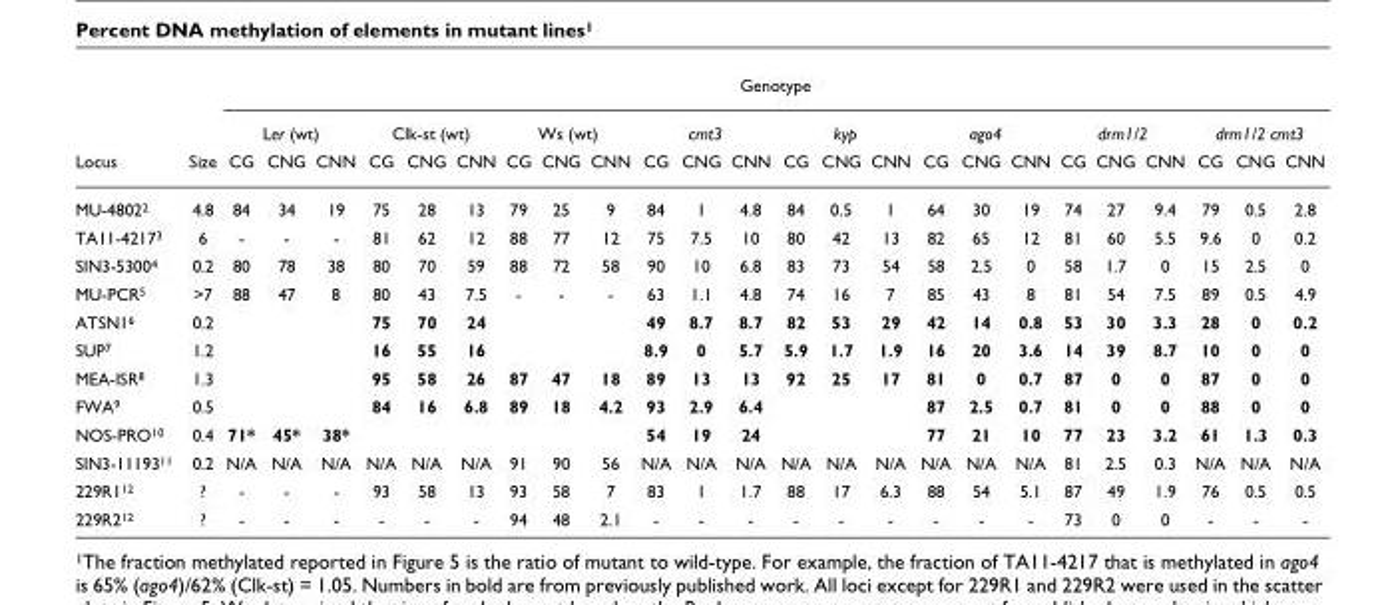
<table><thead><tr><td rowspan="3">Locus</td><td rowspan="3">Size</td><td colspan="24">Genotype</td></tr><tr><td colspan="3">Ler (wt)</td><td colspan="3">Clk-st (wt)</td><td colspan="3">Ws (wt)</td><td colspan="3">cmt3</td><td colspan="3">kyp</td><td colspan="3">ago4</td><td colspan="3">drm1/2</td><td colspan="3">drm1/2 cmt3</td></tr><tr><td>CG</td><td>CNG</td><td>CNN</td><td>CG</td><td>CNG</td><td>CNN</td><td>CG</td><td>CNG</td><td>CNN</td><td>CG</td><td>CNG</td><td>CNN</td><td>CG</td><td>CNG</td><td>CNN</td><td>CG</td><td>CNG</td><td>CNN</td><td>CG</td><td>CNG</td><td>CNN</td><td>CG</td><td>CNG</td><td>CNN</td></tr></thead><tbody><tr><td>MU-48022</td><td>4.8</td><td>84</td><td>34</td><td>19</td><td>75</td><td>28</td><td>13</td><td>79</td><td>25</td><td>9</td><td>84</td><td>1</td><td>4.8</td><td>84</td><td>0.5</td><td>1</td><td>64</td><td>30</td><td>19</td><td>74</td><td>27</td><td>9.4</td><td>79</td><td>0.5</td><td>2.8</td></tr><tr><td>TA11-42173</td><td>6</td><td>-</td><td>-</td><td>-</td><td>81</td><td>62</td><td>12</td><td>88</td><td>77</td><td>12</td><td>75</td><td>7.5</td><td>10</td><td>80</td><td>42</td><td>13</td><td>82</td><td>65</td><td>12</td><td>81</td><td>60</td><td>5.5</td><td>9.6</td><td>0</td><td>0.2</td></tr><tr><td>SIN3-53004</td><td>0.2</td><td>80</td><td>78</td><td>38</td><td>80</td><td>70</td><td>59</td><td>88</td><td>72</td><td>58</td><td>90</td><td>10</td><td>6.8</td><td>83</td><td>73</td><td>54</td><td>58</td><td>2.5</td><td>0</td><td>58</td><td>1.7</td><td>0</td><td>15</td><td>2.5</td><td>0</td></tr><tr><td>MU-PCR5</td><td>&gt;7</td><td>88</td><td>47</td><td>8</td><td>80</td><td>43</td><td>7.5</td><td>-</td><td>-</td><td>-</td><td>63</td><td>1.1</td><td>4.8</td><td>74</td><td>16</td><td>7</td><td>85</td><td>43</td><td>8</td><td>81</td><td>54</td><td>7.5</td><td>89</td><td>0.5</td><td>4.9</td></tr><tr><td>ATSN16</td><td>0.2</td><td></td><td></td><td></td><td>75</td><td>70</td><td>24</td><td></td><td></td><td></td><td>49</td><td>8.7</td><td>8.7</td><td>82</td><td>53</td><td>29</td><td>42</td><td>14</td><td>0.8</td><td>53</td><td>30</td><td>3.3</td><td>28</td><td>0</td><td>0.2</td></tr><tr><td>SUP7</td><td>1.2</td><td></td><td></td><td></td><td>16</td><td>55</td><td>16</td><td></td><td></td><td></td><td>8.9</td><td>0</td><td>5.7</td><td>5.9</td><td>1.7</td><td>1.9</td><td>16</td><td>20</td><td>3.6</td><td>14</td><td>39</td><td>8.7</td><td>10</td><td>0</td><td>0</td></tr><tr><td>MEA-ISR8</td><td>1.3</td><td></td><td></td><td></td><td>95</td><td>58</td><td>26</td><td>87</td><td>47</td><td>18</td><td>89</td><td>13</td><td>13</td><td>92</td><td>25</td><td>17</td><td>81</td><td>0</td><td>0.7</td><td>87</td><td>0</td><td>0</td><td>87</td><td>0</td><td>0</td></tr><tr><td>FWA9</td><td>0.5</td><td></td><td></td><td></td><td>84</td><td>16</td><td>6.8</td><td>89</td><td>18</td><td>4.2</td><td>93</td><td>2.9</td><td>6.4</td><td></td><td></td><td></td><td>87</td><td>2.5</td><td>0.7</td><td>81</td><td>0</td><td>0</td><td>88</td><td>0</td><td>0</td></tr><tr><td>NOS-PRO10</td><td>0.4</td><td>71*</td><td>45*</td><td>38*</td><td></td><td></td><td></td><td></td><td></td><td></td><td>54</td><td>19</td><td>24</td><td></td><td></td><td></td><td>77</td><td>21</td><td>10</td><td>77</td><td>23</td><td>3.2</td><td>61</td><td>1.3</td><td>0.3</td></tr><tr><td>SIN3-1119311</td><td>0.2</td><td>N/A</td><td>N/A</td><td>N/A</td><td>N/A</td><td>N/A</td><td>N/A</td><td>91</td><td>90</td><td>56</td><td>N/A</td><td>N/A</td><td>N/A</td><td>N/A</td><td>N/A</td><td>N/A</td><td>N/A</td><td>N/A</td><td>N/A</td><td>81</td><td>2.5</td><td>0.3</td><td>N/A</td><td>N/A</td><td>N/A</td></tr><tr><td>229R112</td><td>?</td><td>-</td><td>-</td><td>-</td><td>93</td><td>58</td><td>13</td><td>93</td><td>58</td><td>7</td><td>83</td><td>1</td><td>1.7</td><td>88</td><td>17</td><td>6.3</td><td>88</td><td>54</td><td>5.1</td><td>87</td><td>49</td><td>1.9</td><td>76</td><td>0.5</td><td>0.5</td></tr><tr><td>229R212</td><td>?</td><td>-</td><td>-</td><td>-</td><td>-</td><td>-</td><td>-</td><td>94</td><td>48</td><td>2.1</td><td>-</td><td>-</td><td>-</td><td>-</td><td>-</td><td>-</td><td>-</td><td>-</td><td>-</td><td>73</td><td>0</td><td>0</td><td>-</td><td>-</td><td>-</td></tr></tbody></table>